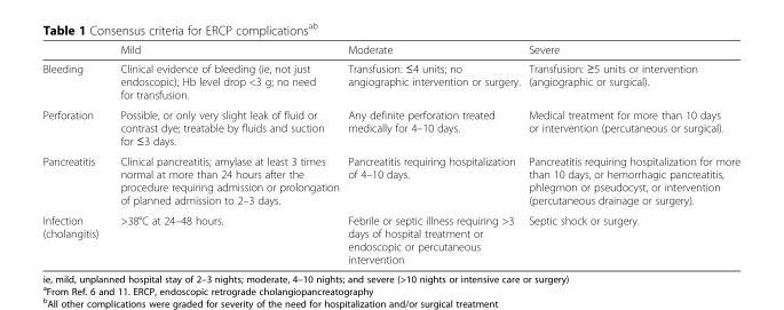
<table><thead><tr><td></td><td>Mild</td><td>Moderate</td><td>Severe</td></tr></thead><tbody><tr><td>Bleeding</td><td>Clinical evidence of bleeding (ie, not just endoscopic); Hb level drop &lt;3 g; no need for transfusion.</td><td>Transfusion: ≤4 units; no angiographic intervention or surgery.</td><td>Transfusion: ≥5 units or intervention (angiographic or surgical).</td></tr><tr><td>Perforation</td><td>Possible, or only very slight leak of fluid or contrast dye; treatable by fluids and suction for ≤3 days.</td><td>Any definite perforation treated medically for 4–10 days.</td><td>Medical treatment for more than 10 days or intervention (percutaneous or surgical).</td></tr><tr><td>Pancreatitis</td><td>Clinical pancreatitis; amylase at least 3 times normal at more than 24 hours after the procedure requiring admission or prolongation of planned admission to 2–3 days.</td><td>Pancreatitis requiring hospitalization of 4–10 days.</td><td>Pancreatitis requiring hospitalization for more than 10 days, or hemorrhagic pancreatitis, phlegmon or pseudocyst, or intervention (percutaneous drainage or surgery).</td></tr><tr><td>Infection (cholangitis)</td><td>&gt;38°C at 24–48 hours.</td><td>Febrile or septic illness requiring &gt;3 days of hospital treatment or endoscopic or percutaneous intervention</td><td>Septic shock or surgery.</td></tr></tbody></table>